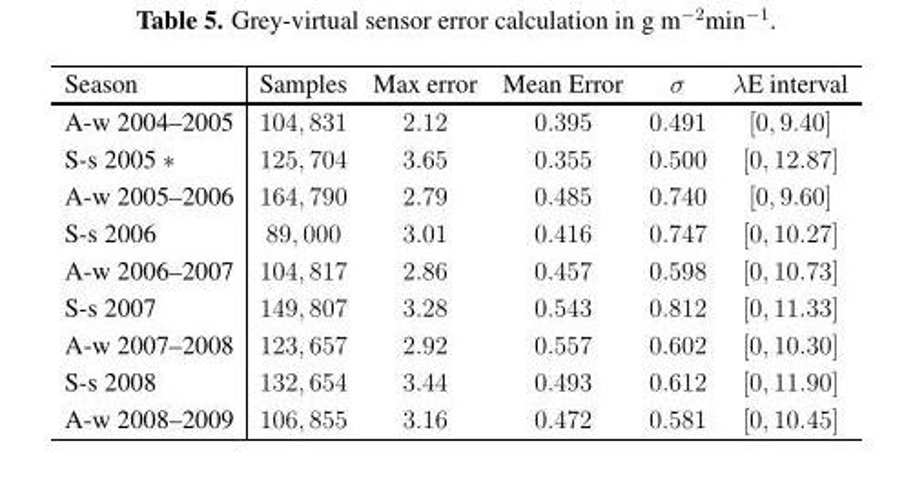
<table><thead><tr><td>Season</td><td>Samples</td><td>Max error</td><td>Mean Error</td><td>σ</td><td>λE interval</td></tr></thead><tbody><tr><td>A-w 2004–2005</td><td>104, 831</td><td>2.12</td><td>0.395</td><td>0.491</td><td>[0, 9.40]</td></tr><tr><td>S-s 2005 ∗</td><td>125, 704</td><td>3.65</td><td>0.355</td><td>0.500</td><td>[0, 12.87]</td></tr><tr><td>A-w 2005–2006</td><td>164, 790</td><td>2.79</td><td>0.485</td><td>0.740</td><td>[0, 9.60]</td></tr><tr><td>S-s 2006</td><td>89, 000</td><td>3.01</td><td>0.416</td><td>0.747</td><td>[0, 10.27]</td></tr><tr><td>A-w 2006–2007</td><td>104, 817</td><td>2.86</td><td>0.457</td><td>0.598</td><td>[0, 10.73]</td></tr><tr><td>S-s 2007</td><td>149, 807</td><td>3.28</td><td>0.543</td><td>0.812</td><td>[0, 11.33]</td></tr><tr><td>A-w 2007–2008</td><td>123, 657</td><td>2.92</td><td>0.557</td><td>0.602</td><td>[0, 10.30]</td></tr><tr><td>S-s 2008</td><td>132, 654</td><td>3.44</td><td>0.493</td><td>0.612</td><td>[0, 11.90]</td></tr><tr><td>A-w 2008–2009</td><td>106, 855</td><td>3.16</td><td>0.472</td><td>0.581</td><td>[0, 10.45]</td></tr></tbody></table>